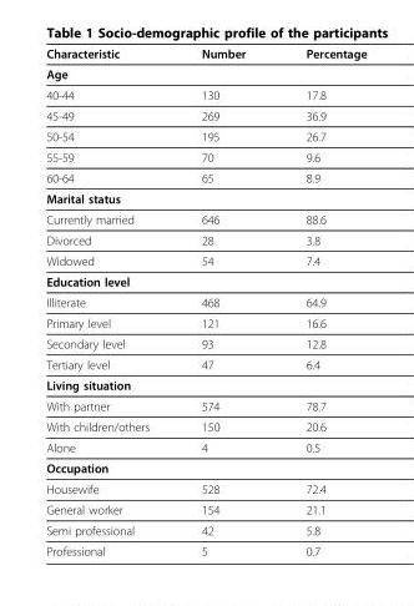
<table><thead><tr><td>Characteristic</td><td>Number</td><td>Percentage</td></tr></thead><tbody><tr><td colspan="3">Age</td></tr><tr><td>40-44</td><td>130</td><td>17.8</td></tr><tr><td>45-49</td><td>269</td><td>36.9</td></tr><tr><td>50-54</td><td>195</td><td>26.7</td></tr><tr><td>55-59</td><td>70</td><td>9.6</td></tr><tr><td>60-64</td><td>65</td><td>8.9</td></tr><tr><td colspan="3">Marital status</td></tr><tr><td>Currently married</td><td>646</td><td>88.6</td></tr><tr><td>Divorced</td><td>28</td><td>3.8</td></tr><tr><td>Widowed</td><td>54</td><td>7.4</td></tr><tr><td colspan="3">Education level</td></tr><tr><td>Illiterate</td><td>468</td><td>64.9</td></tr><tr><td>Primary level</td><td>121</td><td>16.6</td></tr><tr><td>Secondary level</td><td>93</td><td>12.8</td></tr><tr><td>Tertiary level</td><td>47</td><td>6.4</td></tr><tr><td colspan="3">Living situation</td></tr><tr><td>With partner</td><td>574</td><td>78.7</td></tr><tr><td>With children/others</td><td>150</td><td>20.6</td></tr><tr><td>Alone</td><td>4</td><td>0.5</td></tr><tr><td colspan="3">Occupation</td></tr><tr><td>Housewife</td><td>528</td><td>72.4</td></tr><tr><td>General worker</td><td>154</td><td>21.1</td></tr><tr><td>Semi professional</td><td>42</td><td>5.8</td></tr><tr><td>Professional</td><td>5</td><td>0.7</td></tr></tbody></table>